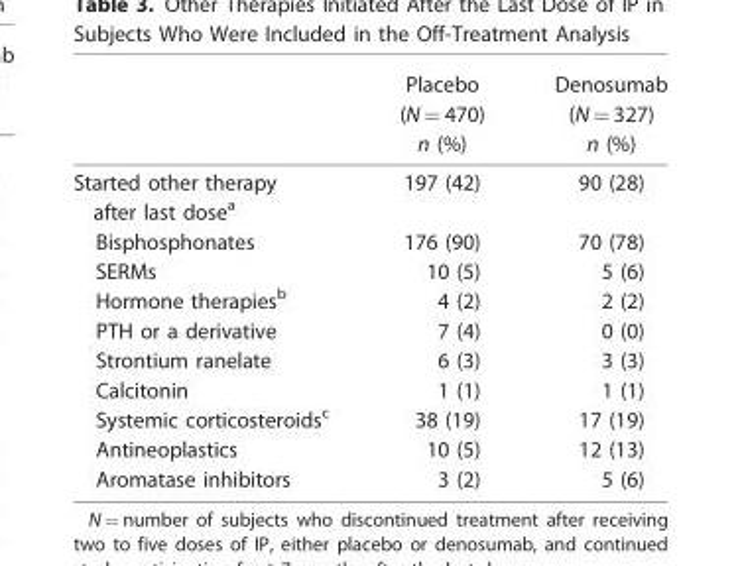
<table><thead><tr><td></td><td>Placebo (N = 470) n (%)</td><td>Denosumab (N = 327) n (%)</td></tr></thead><tbody><tr><td>Started other therapy after last dose<sup>a</sup></td><td>197 (42)</td><td>90 (28)</td></tr><tr><td>Bisphosphonates</td><td>176 (90)</td><td>70 (78)</td></tr><tr><td>SERMs</td><td>10 (5)</td><td>5 (6)</td></tr><tr><td>Hormone therapies<sup>b</sup></td><td>4 (2)</td><td>2 (2)</td></tr><tr><td>PTH or a derivative</td><td>7 (4)</td><td>0 (0)</td></tr><tr><td>Strontium ranelate</td><td>6 (3)</td><td>3 (3)</td></tr><tr><td>Calcitonin</td><td>1 (1)</td><td>1 (1)</td></tr><tr><td>Systemic corticosteroids<sup>c</sup></td><td>38 (19)</td><td>17 (19)</td></tr><tr><td>Antineoplastics</td><td>10 (5)</td><td>12 (13)</td></tr><tr><td>Aromatase inhibitors</td><td>3 (2)</td><td>5 (6)</td></tr></tbody></table>